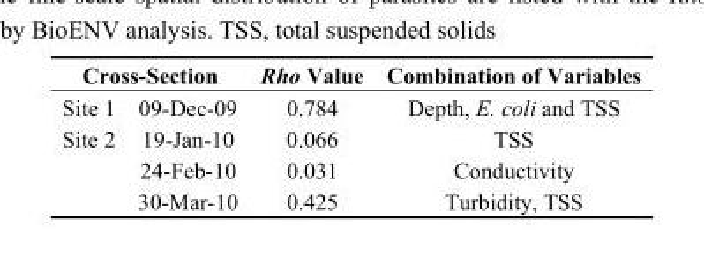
<table><thead><tr><td colspan="2">Cross-Section</td><td rowspan="2">Rho Value 0.784</td><td rowspan="2">Combination of Variables Depth, E. coli and TSS</td></tr><tr><td>Site 1</td><td>09-Dec-09</td></tr></thead><tbody><tr><td rowspan="3">Site 2</td><td>19-Jan-10</td><td>0.066</td><td>TSS</td></tr><tr><td>24-Feb-10</td><td>0.031</td><td>Conductivity</td></tr><tr><td>30-Mar-10</td><td>0.425</td><td>Turbidity, TSS</td></tr></tbody></table>